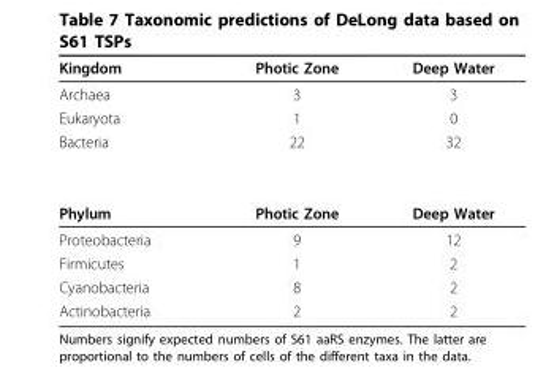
<table><thead><tr><td>Kingdom</td><td>Photic Zone</td><td>Deep Water</td></tr></thead><tbody><tr><td>Archaea</td><td>3</td><td>3</td></tr><tr><td>Eukaryota</td><td>1</td><td>0</td></tr><tr><td>Bacteria</td><td>22</td><td>32</td></tr><tr><td>Phylum</td><td>Photic Zone</td><td>Deep Water</td></tr><tr><td>Proteobacteria</td><td>9</td><td>12</td></tr><tr><td>Firmicutes</td><td>1</td><td>2</td></tr><tr><td>Cyanobacteria</td><td>8</td><td>2</td></tr><tr><td>Actinobacteria</td><td>2</td><td>2</td></tr></tbody></table>